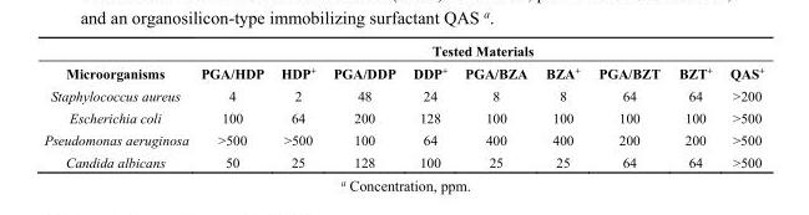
<table><thead><tr><td rowspan="2">Microorganisms</td><td colspan="9">Tested Materials</td></tr><tr><td>PGA/HDP</td><td>HDP<sup>+</sup></td><td>PGA/DDP</td><td>DDP<sup>+</sup></td><td>PGA/BZA</td><td>BZA<sup>+</sup></td><td>PGA/BZT</td><td>BZT<sup>+</sup></td><td>QAS<sup>+</sup></td></tr></thead><tbody><tr><td>Staphylococcus aureus</td><td>4</td><td>2</td><td>48</td><td>24</td><td>8</td><td>8</td><td>64</td><td>64</td><td>&gt;200</td></tr><tr><td>Escherichia coli</td><td>100</td><td>64</td><td>200</td><td>128</td><td>100</td><td>100</td><td>100</td><td>100</td><td>&gt;500</td></tr><tr><td>Pseudomonas aeruginosa</td><td>&gt;500</td><td>&gt;500</td><td>100</td><td>64</td><td>400</td><td>400</td><td>200</td><td>200</td><td>&gt;500</td></tr><tr><td>Candida albicans</td><td>50</td><td>25</td><td>128</td><td>100</td><td>25</td><td>25</td><td>64</td><td>64</td><td>&gt;500</td></tr></tbody></table>